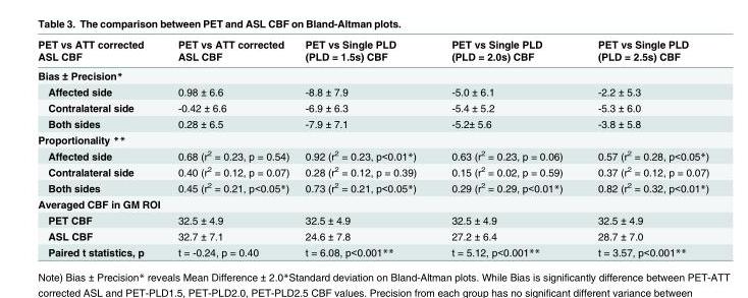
<table><thead><tr><td>PET vs ATT corrected ASL CBF</td><td>PET vs ATT corrected ASL CBF</td><td>PET vs Single PLD (PLD = 1.5s) CBF</td><td>PET vs Single PLD (PLD = 2.0s) CBF</td><td>PET vs Single PLD (PLD = 2.5s) CBF</td></tr></thead><tbody><tr><td colspan="5">Bias ± Precision*</td></tr><tr><td>Affected side</td><td>0.98 ± 6.6</td><td>-8.8 ± 7.9</td><td>-5.0 ± 6.1</td><td>-2.2 ± 5.3</td></tr><tr><td>Contralateral side</td><td>-0.42 ± 6.6</td><td>-6.9 ± 6.3</td><td>-5.4 ± 5.2</td><td>-5.3 ± 6.0</td></tr><tr><td>Both sides</td><td>0.28 ± 6.5</td><td>-7.9 ± 7.1</td><td>-5.2± 5.6</td><td>-3.8 ± 5.8</td></tr><tr><td colspan="5">Proportionality **</td></tr><tr><td>Affected side</td><td>0.68 (r<sup>2</sup> = 0.23, p = 0.54)</td><td>0.92 (r<sup>2</sup> = 0.23, p&lt;0.01*)</td><td>0.63 (r<sup>2</sup> = 0.23, p = 0.06)</td><td>0.57 (r<sup>2</sup> = 0.28, p&lt;0.05*)</td></tr><tr><td>Contralateral side</td><td>0.40 (r<sup>2</sup> = 0.12, p = 0.07)</td><td>0.28 (r<sup>2</sup> = 0.12, p = 0.39)</td><td>0.15 (r<sup>2</sup> = 0.02, p = 0.59)</td><td>0.37 (r<sup>2</sup> = 0.12, p = 0.07)</td></tr><tr><td>Both sides</td><td>0.45 (r<sup>2</sup> = 0.21, p&lt;0.05*)</td><td>0.73 (r<sup>2</sup> = 0.21, p&lt;0.05*)</td><td>0.29 (r<sup>2</sup> = 0.29, p&lt;0.01*)</td><td>0.82 (r<sup>2</sup> = 0.32, p&lt;0.01*)</td></tr><tr><td colspan="5">Averaged CBF in GM ROI</td></tr><tr><td>PET CBF</td><td>32.5 ± 4.9</td><td>32.5 ± 4.9</td><td>32.5 ± 4.9</td><td>32.5 ± 4.9</td></tr><tr><td>ASL CBF</td><td>32.7 ± 7.1</td><td>24.6 ± 7.8</td><td>27.2 ± 6.4</td><td>28.7 ± 7.0</td></tr><tr><td>Paired t statistics, p</td><td>t = -0.24, p = 0.40</td><td>t = 6.08, p&lt;0.001**</td><td>t = 5.12, p&lt;0.001**</td><td>t = 3.57, p&lt;0.001**</td></tr></tbody></table>